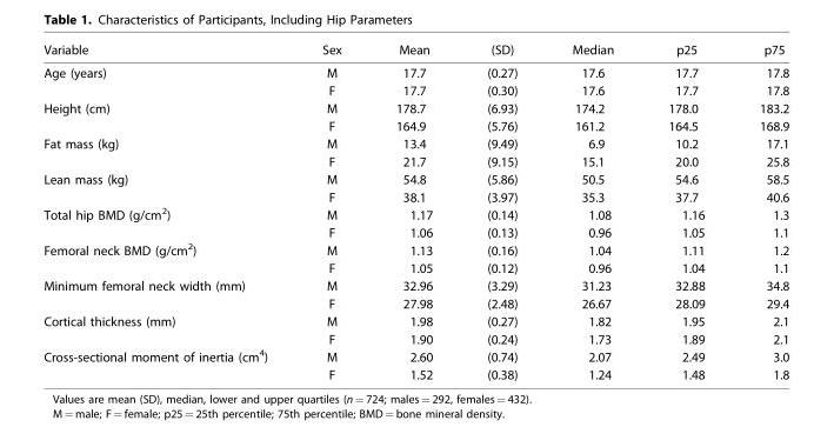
<table><thead><tr><td>Variable</td><td>Sex</td><td>Mean</td><td>(SD)</td><td>Median</td><td>p25</td><td>p75</td></tr></thead><tbody><tr><td rowspan="2">Age (years)</td><td>M</td><td>17.7</td><td>(0.27)</td><td>17.6</td><td>17.7</td><td>17.8</td></tr><tr><td>F</td><td>17.7</td><td>(0.30)</td><td>17.6</td><td>17.7</td><td>17.8</td></tr><tr><td rowspan="2">Height (cm)</td><td>M</td><td>178.7</td><td>(6.93)</td><td>174.2</td><td>178.0</td><td>183.2</td></tr><tr><td>F</td><td>164.9</td><td>(5.76)</td><td>161.2</td><td>164.5</td><td>168.9</td></tr><tr><td rowspan="2">Fat mass (kg)</td><td>M</td><td>13.4</td><td>(9.49)</td><td>6.9</td><td>10.2</td><td>17.1</td></tr><tr><td>F</td><td>21.7</td><td>(9.15)</td><td>15.1</td><td>20.0</td><td>25.8</td></tr><tr><td rowspan="2">Lean mass (kg)</td><td>M</td><td>54.8</td><td>(5.86)</td><td>50.5</td><td>54.6</td><td>58.5</td></tr><tr><td>F</td><td>38.1</td><td>(3.97)</td><td>35.3</td><td>37.7</td><td>40.6</td></tr><tr><td rowspan="2">Total hip BMD (g/cm<sup>2</sup>)</td><td>M</td><td>1.17</td><td>(0.14)</td><td>1.08</td><td>1.16</td><td>1.3</td></tr><tr><td>F</td><td>1.06</td><td>(0.13)</td><td>0.96</td><td>1.05</td><td>1.1</td></tr><tr><td rowspan="2">Femoral neck BMD (g/cm<sup>2</sup>)</td><td>M</td><td>1.13</td><td>(0.16)</td><td>1.04</td><td>1.11</td><td>1.2</td></tr><tr><td>F</td><td>1.05</td><td>(0.12)</td><td>0.96</td><td>1.04</td><td>1.1</td></tr><tr><td rowspan="2">Minimum femoral neck width (mm)</td><td>M</td><td>32.96</td><td>(3.29)</td><td>31.23</td><td>32.88</td><td>34.8</td></tr><tr><td>F</td><td>27.98</td><td>(2.48)</td><td>26.67</td><td>28.09</td><td>29.4</td></tr><tr><td rowspan="2">Cortical thickness (mm)</td><td>M</td><td>1.98</td><td>(0.27)</td><td>1.82</td><td>1.95</td><td>2.1</td></tr><tr><td>F</td><td>1.90</td><td>(0.24)</td><td>1.73</td><td>1.89</td><td>2.1</td></tr><tr><td rowspan="2">Cross-sectional moment of inertia (cm<sup>4</sup>)</td><td>M</td><td>2.60</td><td>(0.74)</td><td>2.07</td><td>2.49</td><td>3.0</td></tr><tr><td>F</td><td>1.52</td><td>(0.38)</td><td>1.24</td><td>1.48</td><td>1.8</td></tr></tbody></table>